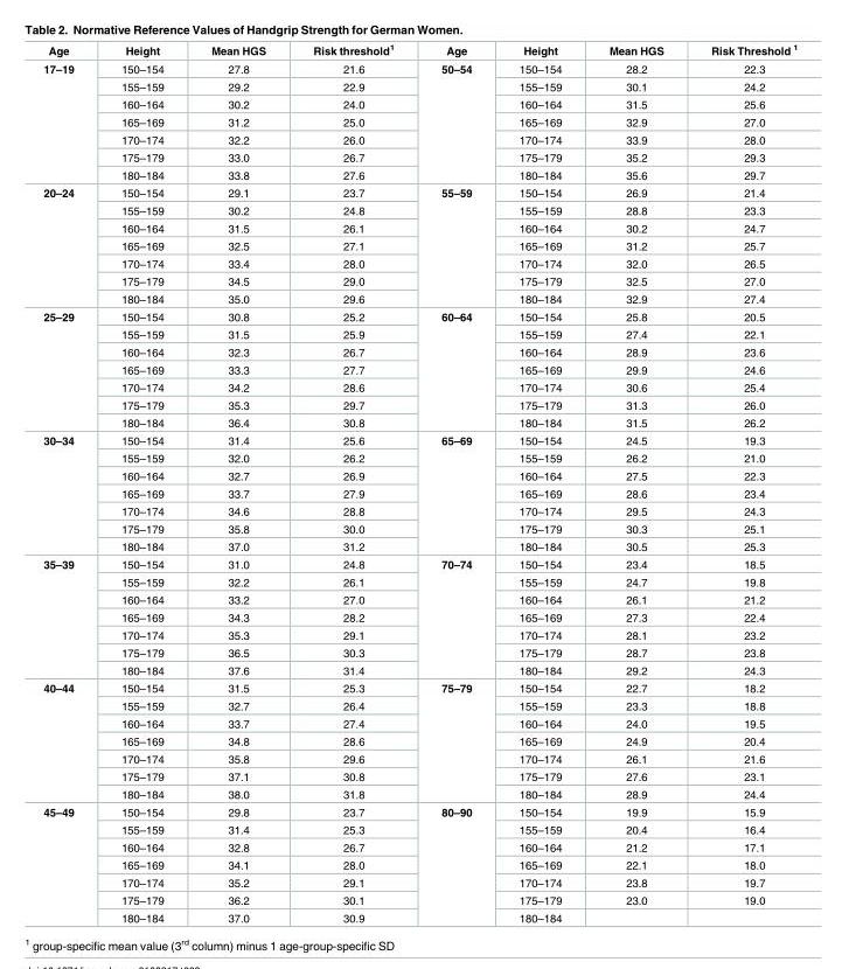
<table><thead><tr><td>Age</td><td>Height</td><td>Mean HGS</td><td>Risk threshold<sup>1</sup></td><td>Age</td><td>Height</td><td>Mean HGS</td><td>Risk Threshold <sup>1</sup></td></tr></thead><tbody><tr><td rowspan="7">17–19</td><td>150–154</td><td>27.8</td><td>21.6</td><td rowspan="7">50–54</td><td>150–154</td><td>28.2</td><td>22.3</td></tr><tr><td>155–159</td><td>29.2</td><td>22.9</td><td>155–159</td><td>30.1</td><td>24.2</td></tr><tr><td>160–164</td><td>30.2</td><td>24.0</td><td>160–164</td><td>31.5</td><td>25.6</td></tr><tr><td>165–169</td><td>31.2</td><td>25.0</td><td>165–169</td><td>32.9</td><td>27.0</td></tr><tr><td>170–174</td><td>32.2</td><td>26.0</td><td>170–174</td><td>33.9</td><td>28.0</td></tr><tr><td>175–179</td><td>33.0</td><td>26.7</td><td>175–179</td><td>35.2</td><td>29.3</td></tr><tr><td>180–184</td><td>33.8</td><td>27.6</td><td>180–184</td><td>35.6</td><td>29.7</td></tr><tr><td rowspan="7">20–24</td><td>150–154</td><td>29.1</td><td>23.7</td><td rowspan="7">55–59</td><td>150–154</td><td>26.9</td><td>21.4</td></tr><tr><td>155–159</td><td>30.2</td><td>24.8</td><td>155–159</td><td>28.8</td><td>23.3</td></tr><tr><td>160–164</td><td>31.5</td><td>26.1</td><td>160–164</td><td>30.2</td><td>24.7</td></tr><tr><td>165–169</td><td>32.5</td><td>27.1</td><td>165–169</td><td>31.2</td><td>25.7</td></tr><tr><td>170–174</td><td>33.4</td><td>28.0</td><td>170–174</td><td>32.0</td><td>26.5</td></tr><tr><td>175–179</td><td>34.5</td><td>29.0</td><td>175–179</td><td>32.5</td><td>27.0</td></tr><tr><td>180–184</td><td>35.0</td><td>29.6</td><td>180–184</td><td>32.9</td><td>27.4</td></tr><tr><td rowspan="7">25–29</td><td>150–154</td><td>30.8</td><td>25.2</td><td rowspan="7">60–64</td><td>150–154</td><td>25.8</td><td>20.5</td></tr><tr><td>155–159</td><td>31.5</td><td>25.9</td><td>155–159</td><td>27.4</td><td>22.1</td></tr><tr><td>160–164</td><td>32.3</td><td>26.7</td><td>160–164</td><td>28.9</td><td>23.6</td></tr><tr><td>165–169</td><td>33.3</td><td>27.7</td><td>165–169</td><td>29.9</td><td>24.6</td></tr><tr><td>170–174</td><td>34.2</td><td>28.6</td><td>170–174</td><td>30.6</td><td>25.4</td></tr><tr><td>175–179</td><td>35.3</td><td>29.7</td><td>175–179</td><td>31.3</td><td>26.0</td></tr><tr><td>180–184</td><td>36.4</td><td>30.8</td><td>180–184</td><td>31.5</td><td>26.2</td></tr><tr><td rowspan="7">30–34</td><td>150–154</td><td>31.4</td><td>25.6</td><td rowspan="7">65–69</td><td>150–154</td><td>24.5</td><td>19.3</td></tr><tr><td>155–159</td><td>32.0</td><td>26.2</td><td>155–159</td><td>26.2</td><td>21.0</td></tr><tr><td>160–164</td><td>32.7</td><td>26.9</td><td>160–164</td><td>27.5</td><td>22.3</td></tr><tr><td>165–169</td><td>33.7</td><td>27.9</td><td>165–169</td><td>28.6</td><td>23.4</td></tr><tr><td>170–174</td><td>34.6</td><td>28.8</td><td>170–174</td><td>29.5</td><td>24.3</td></tr><tr><td>175–179</td><td>35.8</td><td>30.0</td><td>175–179</td><td>30.3</td><td>25.1</td></tr><tr><td>180–184</td><td>37.0</td><td>31.2</td><td>180–184</td><td>30.5</td><td>25.3</td></tr><tr><td rowspan="7">35–39</td><td>150–154</td><td>31.0</td><td>24.8</td><td rowspan="7">70–74</td><td>150–154</td><td>23.4</td><td>18.5</td></tr><tr><td>155–159</td><td>32.2</td><td>26.1</td><td>155–159</td><td>24.7</td><td>19.8</td></tr><tr><td>160–164</td><td>33.2</td><td>27.0</td><td>160–164</td><td>26.1</td><td>21.2</td></tr><tr><td>165–169</td><td>34.3</td><td>28.2</td><td>165–169</td><td>27.3</td><td>22.4</td></tr><tr><td>170–174</td><td>35.3</td><td>29.1</td><td>170–174</td><td>28.1</td><td>23.2</td></tr><tr><td>175–179</td><td>36.5</td><td>30.3</td><td>175–179</td><td>28.7</td><td>23.8</td></tr><tr><td>180–184</td><td>37.6</td><td>31.4</td><td>180–184</td><td>29.2</td><td>24.3</td></tr><tr><td rowspan="7">40–44</td><td>150–154</td><td>31.5</td><td>25.3</td><td rowspan="7">75–79</td><td>150–154</td><td>22.7</td><td>18.2</td></tr><tr><td>155–159</td><td>32.7</td><td>26.4</td><td>155–159</td><td>23.3</td><td>18.8</td></tr><tr><td>160–164</td><td>33.7</td><td>27.4</td><td>160–164</td><td>24.0</td><td>19.5</td></tr><tr><td>165–169</td><td>34.8</td><td>28.6</td><td>165–169</td><td>24.9</td><td>20.4</td></tr><tr><td>170–174</td><td>35.8</td><td>29.6</td><td>170–174</td><td>26.1</td><td>21.6</td></tr><tr><td>175–179</td><td>37.1</td><td>30.8</td><td>175–179</td><td>27.6</td><td>23.1</td></tr><tr><td>180–184</td><td>38.0</td><td>31.8</td><td>180–184</td><td>28.9</td><td>24.4</td></tr><tr><td rowspan="7">45–49</td><td>150–154</td><td>29.8</td><td>23.7</td><td rowspan="7">80–90</td><td>150–154</td><td>19.9</td><td>15.9</td></tr><tr><td>155–159</td><td>31.4</td><td>25.3</td><td>155–159</td><td>20.4</td><td>16.4</td></tr><tr><td>160–164</td><td>32.8</td><td>26.7</td><td>160–164</td><td>21.2</td><td>17.1</td></tr><tr><td>165–169</td><td>34.1</td><td>28.0</td><td>165–169</td><td>22.1</td><td>18.0</td></tr><tr><td>170–174</td><td>35.2</td><td>29.1</td><td>170–174</td><td>23.8</td><td>19.7</td></tr><tr><td>175–179</td><td>36.2</td><td>30.1</td><td>175–179</td><td>23.0</td><td>19.0</td></tr><tr><td>180–184</td><td>37.0</td><td>30.9</td><td>180–184</td><td></td><td></td></tr></tbody></table>